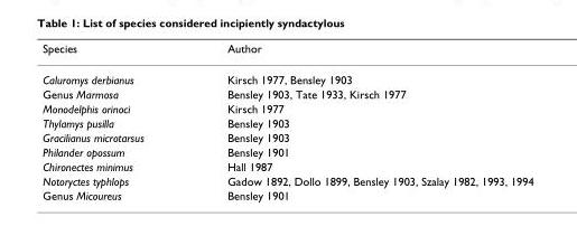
<table><thead><tr><td>Species</td><td>Author</td></tr></thead><tbody><tr><td>Caluromys derbianus</td><td>Kirsch 1977, Bensley 1903</td></tr><tr><td>Genus Marmosa</td><td>Bensley 1903, Tate 1933, Kirsch 1977</td></tr><tr><td>Monodelphis orinoci</td><td>Kirsch 1977</td></tr><tr><td>Thylamys pusilla</td><td>Bensley 1903</td></tr><tr><td>Gracilianus microtarsus</td><td>Bensley 1903</td></tr><tr><td>Philander opossum</td><td>Bensley 1901</td></tr><tr><td>Chironectes minimus</td><td>Hall 1987</td></tr><tr><td>Notoryctes typhlops</td><td>Gadow 1892, Dollo 1899, Bensley 1903, Szalay 1982, 1993, 1994</td></tr><tr><td>Genus Micoureus</td><td>Bensley 1901</td></tr></tbody></table>